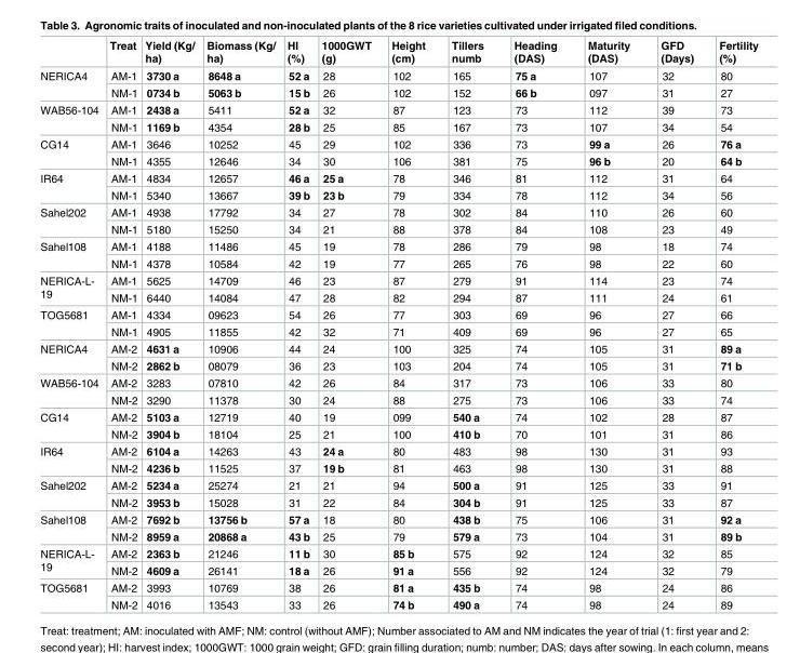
<table><thead><tr><td></td><td>Treat</td><td>Yield (Kg/ ha)</td><td>Biomass (Kg/ ha)</td><td>HI (%)</td><td>1000GWT (g)</td><td>Height (cm)</td><td>Tillers numb</td><td>Heading (DAS)</td><td>Maturity (DAS)</td><td>GFD (Days)</td><td>Fertility (%)</td></tr></thead><tbody><tr><td rowspan="2">NERICA4</td><td>AM-1</td><td>3730 a</td><td>8648 a</td><td>52 a</td><td>28</td><td>102</td><td>165</td><td>75 a</td><td>107</td><td>32</td><td>80</td></tr><tr><td>NM-1</td><td>0734 b</td><td>5063 b</td><td>15 b</td><td>26</td><td>102</td><td>152</td><td>66 b</td><td>097</td><td>31</td><td>27</td></tr><tr><td rowspan="2">WAB56-104</td><td>AM-1</td><td>2438 a</td><td>5411</td><td>52 a</td><td>32</td><td>87</td><td>123</td><td>73</td><td>112</td><td>39</td><td>73</td></tr><tr><td>NM-1</td><td>1169 b</td><td>4354</td><td>28 b</td><td>25</td><td>85</td><td>167</td><td>73</td><td>107</td><td>34</td><td>54</td></tr><tr><td rowspan="2">CG14</td><td>AM-1</td><td>3646</td><td>10252</td><td>45</td><td>29</td><td>102</td><td>336</td><td>73</td><td>99 a</td><td>26</td><td>76 a</td></tr><tr><td>NM-1</td><td>4355</td><td>12646</td><td>34</td><td>30</td><td>106</td><td>381</td><td>75</td><td>96 b</td><td>20</td><td>64 b</td></tr><tr><td rowspan="2">IR64</td><td>AM-1</td><td>4834</td><td>12657</td><td>46 a</td><td>25 a</td><td>78</td><td>346</td><td>81</td><td>112</td><td>31</td><td>64</td></tr><tr><td>NM-1</td><td>5340</td><td>13667</td><td>39 b</td><td>23 b</td><td>79</td><td>334</td><td>78</td><td>112</td><td>34</td><td>56</td></tr><tr><td rowspan="2">Sahel202</td><td>AM-1</td><td>4938</td><td>17792</td><td>34</td><td>27</td><td>78</td><td>302</td><td>84</td><td>110</td><td>26</td><td>60</td></tr><tr><td>NM-1</td><td>5180</td><td>15250</td><td>34</td><td>21</td><td>88</td><td>378</td><td>84</td><td>108</td><td>23</td><td>49</td></tr><tr><td rowspan="2">Sahel108</td><td>AM-1</td><td>4188</td><td>11486</td><td>45</td><td>19</td><td>78</td><td>286</td><td>79</td><td>98</td><td>18</td><td>74</td></tr><tr><td>NM-1</td><td>4378</td><td>10584</td><td>42</td><td>19</td><td>77</td><td>265</td><td>76</td><td>98</td><td>22</td><td>60</td></tr><tr><td rowspan="2">NERICA-L- 19</td><td>AM-1</td><td>5625</td><td>14709</td><td>46</td><td>23</td><td>87</td><td>279</td><td>91</td><td>114</td><td>23</td><td>74</td></tr><tr><td>NM-1</td><td>6440</td><td>14084</td><td>47</td><td>28</td><td>82</td><td>294</td><td>87</td><td>111</td><td>24</td><td>61</td></tr><tr><td rowspan="2">TOG5681</td><td>AM-1</td><td>4334</td><td>09623</td><td>54</td><td>26</td><td>77</td><td>303</td><td>69</td><td>96</td><td>27</td><td>66</td></tr><tr><td>NM-1</td><td>4905</td><td>11855</td><td>42</td><td>32</td><td>71</td><td>409</td><td>69</td><td>96</td><td>27</td><td>65</td></tr><tr><td rowspan="2">NERICA4</td><td>AM-2</td><td>4631 a</td><td>10906</td><td>44</td><td>24</td><td>100</td><td>325</td><td>74</td><td>105</td><td>31</td><td>89 a</td></tr><tr><td>NM-2</td><td>2862 b</td><td>08079</td><td>36</td><td>23</td><td>103</td><td>204</td><td>74</td><td>105</td><td>31</td><td>71 b</td></tr><tr><td rowspan="2">WAB56-104</td><td>AM-2</td><td>3283</td><td>07810</td><td>42</td><td>26</td><td>84</td><td>317</td><td>73</td><td>106</td><td>33</td><td>80</td></tr><tr><td>NM-2</td><td>3290</td><td>11378</td><td>30</td><td>24</td><td>88</td><td>275</td><td>73</td><td>106</td><td>33</td><td>74</td></tr><tr><td rowspan="2">CG14</td><td>AM-2</td><td>5103 a</td><td>12719</td><td>40</td><td>19</td><td>099</td><td>540 a</td><td>74</td><td>102</td><td>28</td><td>87</td></tr><tr><td>NM-2</td><td>3904 b</td><td>18104</td><td>25</td><td>21</td><td>100</td><td>410 b</td><td>70</td><td>101</td><td>31</td><td>86</td></tr><tr><td rowspan="2">IR64</td><td>AM-2</td><td>6104 a</td><td>14263</td><td>43</td><td>24 a</td><td>80</td><td>483</td><td>98</td><td>130</td><td>31</td><td>93</td></tr><tr><td>NM-2</td><td>4236 b</td><td>11525</td><td>37</td><td>19 b</td><td>81</td><td>463</td><td>98</td><td>130</td><td>31</td><td>88</td></tr><tr><td rowspan="2">Sahel202</td><td>AM-2</td><td>5234 a</td><td>25274</td><td>21</td><td>21</td><td>94</td><td>500 a</td><td>91</td><td>125</td><td>33</td><td>91</td></tr><tr><td>NM-2</td><td>3953 b</td><td>15028</td><td>31</td><td>22</td><td>84</td><td>304 b</td><td>91</td><td>125</td><td>33</td><td>87</td></tr><tr><td rowspan="2">Sahel108</td><td>AM-2</td><td>7692 b</td><td>13756 b</td><td>57 a</td><td>18</td><td>80</td><td>438 b</td><td>75</td><td>106</td><td>31</td><td>92 a</td></tr><tr><td>NM-2</td><td>8959 a</td><td>20868 a</td><td>43 b</td><td>25</td><td>79</td><td>579 a</td><td>73</td><td>104</td><td>31</td><td>89 b</td></tr><tr><td rowspan="2">NERICA-L- 19</td><td>AM-2</td><td>2363 b</td><td>21246</td><td>11 b</td><td>30</td><td>85 b</td><td>575</td><td>92</td><td>124</td><td>32</td><td>85</td></tr><tr><td>NM-2</td><td>4609 a</td><td>26141</td><td>18 a</td><td>26</td><td>91 a</td><td>556</td><td>92</td><td>124</td><td>32</td><td>79</td></tr><tr><td rowspan="2">TOG5681</td><td>AM-2</td><td>3993</td><td>10769</td><td>38</td><td>26</td><td>81 a</td><td>435 b</td><td>74</td><td>98</td><td>24</td><td>86</td></tr><tr><td>NM-2</td><td>4016</td><td>13543</td><td>33</td><td>26</td><td>74 b</td><td>490 a</td><td>74</td><td>98</td><td>24</td><td>89</td></tr></tbody></table>